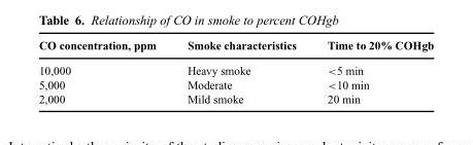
<table><thead><tr><td>CO concentration, ppm</td><td>Smoke characteristics</td><td>Time to 20% COHgb</td></tr></thead><tbody><tr><td>10,000</td><td>Heavy smoke</td><td>&lt;5 min</td></tr><tr><td>5,000</td><td>Moderate</td><td>&lt;10 min</td></tr><tr><td>2,000</td><td>Mild smoke</td><td>20 min</td></tr></tbody></table>